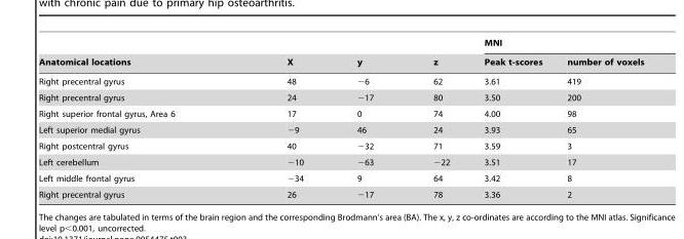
<table><thead><tr><td rowspan="2">Anatomical locations</td><td rowspan="2">X</td><td rowspan="2">y</td><td rowspan="2">z</td><td colspan="2">MNI</td></tr><tr><td>Peak t-scores</td><td>number of voxels</td></tr></thead><tbody><tr><td>Right precentral gyrus</td><td>48</td><td>−6</td><td>62</td><td>3.61</td><td>419</td></tr><tr><td>Right precentral gyrus</td><td>24</td><td>−17</td><td>80</td><td>3.50</td><td>200</td></tr><tr><td>Right superior frontal gyrus, Area 6</td><td>17</td><td>0</td><td>74</td><td>4.00</td><td>98</td></tr><tr><td>Left superior medial gyrus</td><td>−9</td><td>46</td><td>24</td><td>3.93</td><td>65</td></tr><tr><td>Right postcentral gyrus</td><td>40</td><td>−32</td><td>71</td><td>3.59</td><td>3</td></tr><tr><td>Left cerebellum</td><td>−10</td><td>−63</td><td>−22</td><td>3.51</td><td>17</td></tr><tr><td>Left middle frontal gyrus</td><td>−34</td><td>9</td><td>64</td><td>3.42</td><td>8</td></tr><tr><td>Right precentral gyrus</td><td>26</td><td>−17</td><td>78</td><td>3.36</td><td>2</td></tr></tbody></table>